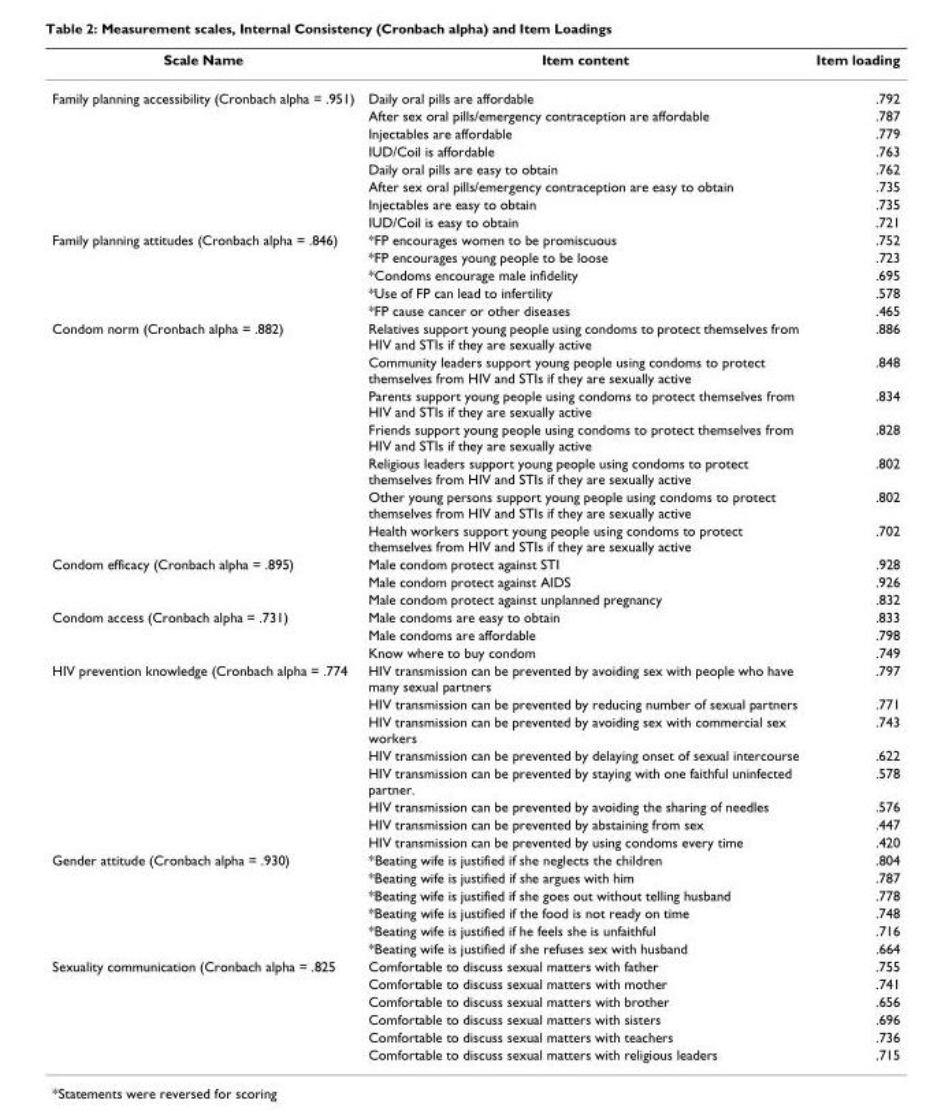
<table><thead><tr><td>Scale Name</td><td>Item content</td><td>Item loading</td></tr></thead><tbody><tr><td rowspan="8">Family planning accessibility (Cronbach alpha = .951)</td><td>Daily oral pills are affordable</td><td>.792</td></tr><tr><td>After sex oral pills/emergency contraception are affordable</td><td>.787</td></tr><tr><td>Injectables are affordable</td><td>.779</td></tr><tr><td>IUD/Coil is affordable</td><td>.763</td></tr><tr><td>Daily oral pills are easy to obtain</td><td>.762</td></tr><tr><td>After sex oral pills/emergency contraception are easy to obtain</td><td>.735</td></tr><tr><td>Injectables are easy to obtain</td><td>.735</td></tr><tr><td>IUD/Coil is easy to obtain</td><td>.721</td></tr><tr><td rowspan="5">Family planning attitudes (Cronbach alpha = .846)</td><td>*FP encourages women to be promiscuous</td><td>.752</td></tr><tr><td>*FP encourages young people to be loose</td><td>.723</td></tr><tr><td>*Condoms encourage male infidelity</td><td>.695</td></tr><tr><td>*Use of FP can lead to infertility</td><td>.578</td></tr><tr><td>*FP cause cancer or other diseases</td><td>.465</td></tr><tr><td rowspan="7">Condom norm (Cronbach alpha = .882)</td><td>Relatives support young people using condoms to protect themselves from HIV and STIs if they are sexually active</td><td>.886</td></tr><tr><td>Community leaders support young people using condoms to protect themselves from HIV and STIs if they are sexually active</td><td>.848</td></tr><tr><td>Parents support young people using condoms to protect themselves from HIV and STIs if they are sexually active</td><td>.834</td></tr><tr><td>Friends support young people using condoms to protect themselves from HIV and STIs if they are sexually active</td><td>.828</td></tr><tr><td>Religious leaders support young people using condoms to protect themselves from HIV and STIs if they are sexually active</td><td>.802</td></tr><tr><td>Other young persons support young people using condoms to protect themselves from HIV and STIs if they are sexually active</td><td>.802</td></tr><tr><td>Health workers support young people using condoms to protect themselves from HIV and STIs if they are sexually active</td><td>.702</td></tr><tr><td rowspan="3">Condom efficacy (Cronbach alpha = .895)</td><td>Male condom protect against STI</td><td>.928</td></tr><tr><td>Male condom protect against AIDS</td><td>.926</td></tr><tr><td>Male condom protect against unplanned pregnancy</td><td>.832</td></tr><tr><td rowspan="3">Condom access (Cronbach alpha = .731)</td><td>Male condoms are easy to obtain</td><td>.833</td></tr><tr><td>Male condoms are affordable</td><td>.798</td></tr><tr><td>Know where to buy condom</td><td>.749</td></tr><tr><td rowspan="8">HIV prevention knowledge (Cronbach alpha = .774</td><td>HIV transmission can be prevented by avoiding sex with people who have many sexual partners</td><td>.797</td></tr><tr><td>HIV transmission can be prevented by reducing number of sexual partners</td><td>.771</td></tr><tr><td>HIV transmission can be prevented by avoiding sex with commercial sex workers</td><td>.743</td></tr><tr><td>HIV transmission can be prevented by delaying onset of sexual intercourse</td><td>.622</td></tr><tr><td>HIV transmission can be prevented by staying with one faithful uninfected partner.</td><td>.578</td></tr><tr><td>HIV transmission can be prevented by avoiding the sharing of needles</td><td>.576</td></tr><tr><td>HIV transmission can be prevented by abstaining from sex</td><td>.447</td></tr><tr><td>HIV transmission can be prevented by using condoms every time</td><td>.420</td></tr><tr><td rowspan="6">Gender attitude (Cronbach alpha = .930)</td><td>*Beating wife is justified if she neglects the children</td><td>.804</td></tr><tr><td>*Beating wife is justified if she argues with him</td><td>.787</td></tr><tr><td>*Beating wife is justified if she goes out without telling husband</td><td>.778</td></tr><tr><td>*Beating wife is justified if the food is not ready on time</td><td>.748</td></tr><tr><td>*Beating wife is justified if he feels she is unfaithful</td><td>.716</td></tr><tr><td>*Beating wife is justified if she refuses sex with husband</td><td>.664</td></tr><tr><td rowspan="6">Sexuality communication (Cronbach alpha = .825</td><td>Comfortable to discuss sexual matters with father</td><td>.755</td></tr><tr><td>Comfortable to discuss sexual matters with mother</td><td>.741</td></tr><tr><td>Comfortable to discuss sexual matters with brother</td><td>.656</td></tr><tr><td>Comfortable to discuss sexual matters with sisters</td><td>.696</td></tr><tr><td>Comfortable to discuss sexual matters with teachers</td><td>.736</td></tr><tr><td>Comfortable to discuss sexual matters with religious leaders</td><td>.715</td></tr></tbody></table>